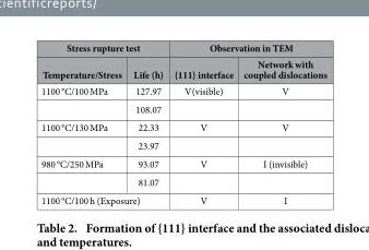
<table><thead><tr><td colspan="2">Stress rupture test</td><td colspan="2">Observation in TEM</td></tr><tr><td>Temperature/Stress</td><td>Life (h)</td><td>{111} interface</td><td>Network with coupled dislocations</td></tr></thead><tbody><tr><td rowspan="2">1100 °C/100 MPa</td><td>127.97</td><td>V(visible)</td><td>V</td></tr><tr><td>108.07</td><td></td><td></td></tr><tr><td rowspan="2">1100 °C/130 MPa</td><td>22.33</td><td>V</td><td>V</td></tr><tr><td>23.97</td><td></td><td></td></tr><tr><td rowspan="2">980 °C/250 MPa</td><td>93.07</td><td>V</td><td>I (invisible)</td></tr><tr><td>81.07</td><td></td><td></td></tr><tr><td colspan="2">1100 °C/100 h (Exposure)</td><td>V</td><td>I</td></tr></tbody></table>